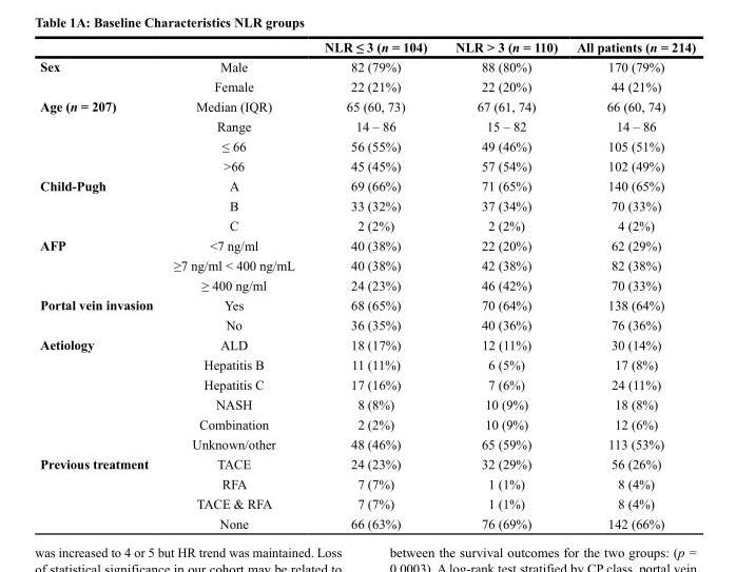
<table><thead><tr><td></td><td></td><td>NLR ≤ 3 (n = 104)</td><td>NLR &gt; 3 (n = 110)</td><td>All patients (n = 214)</td></tr></thead><tbody><tr><td rowspan="2">Sex</td><td>Male</td><td>82 (79%)</td><td>88 (80%)</td><td>170 (79%)</td></tr><tr><td>Female</td><td>22 (21%)</td><td>22 (20%)</td><td>44 (21%)</td></tr><tr><td rowspan="4">Age (n = 207)</td><td>Median (IQR)</td><td>65 (60, 73)</td><td>67 (61, 74)</td><td>66 (60, 74)</td></tr><tr><td>Range</td><td>14 – 86</td><td>15 – 82</td><td>14 – 86</td></tr><tr><td>≤ 66</td><td>56 (55%)</td><td>49 (46%)</td><td>105 (51%)</td></tr><tr><td>&gt;66</td><td>45 (45%)</td><td>57 (54%)</td><td>102 (49%)</td></tr><tr><td rowspan="3">Child-Pugh</td><td>A</td><td>69 (66%)</td><td>71 (65%)</td><td>140 (65%)</td></tr><tr><td>B</td><td>33 (32%)</td><td>37 (34%)</td><td>70 (33%)</td></tr><tr><td>C</td><td>2 (2%)</td><td>2 (2%)</td><td>4 (2%)</td></tr><tr><td rowspan="3">AFP</td><td>&lt;7 ng/ml</td><td>40 (38%)</td><td>22 (20%)</td><td>62 (29%)</td></tr><tr><td>≥7 ng/ml &lt; 400 ng/mL</td><td>40 (38%)</td><td>42 (38%)</td><td>82 (38%)</td></tr><tr><td>≥ 400 ng/ml</td><td>24 (23%)</td><td>46 (42%)</td><td>70 (33%)</td></tr><tr><td rowspan="2">Portal vein invasion</td><td>Yes</td><td>68 (65%)</td><td>70 (64%)</td><td>138 (64%)</td></tr><tr><td>No</td><td>36 (35%)</td><td>40 (36%)</td><td>76 (36%)</td></tr><tr><td rowspan="6">Aetiology</td><td>ALD</td><td>18 (17%)</td><td>12 (11%)</td><td>30 (14%)</td></tr><tr><td>Hepatitis B</td><td>11 (11%)</td><td>6 (5%)</td><td>17 (8%)</td></tr><tr><td>Hepatitis C</td><td>17 (16%)</td><td>7 (6%)</td><td>24 (11%)</td></tr><tr><td>NASH</td><td>8 (8%)</td><td>10 (9%)</td><td>18 (8%)</td></tr><tr><td>Combination</td><td>2 (2%)</td><td>10 (9%)</td><td>12 (6%)</td></tr><tr><td>Unknown/other</td><td>48 (46%)</td><td>65 (59%)</td><td>113 (53%)</td></tr><tr><td rowspan="4">Previous treatment</td><td>TACE</td><td>24 (23%)</td><td>32 (29%)</td><td>56 (26%)</td></tr><tr><td>RFA</td><td>7 (7%)</td><td>1 (1%)</td><td>8 (4%)</td></tr><tr><td>TACE &amp; RFA</td><td>7 (7%)</td><td>1 (1%)</td><td>8 (4%)</td></tr><tr><td>None</td><td>66 (63%)</td><td>76 (69%)</td><td>142 (66%)</td></tr></tbody></table>